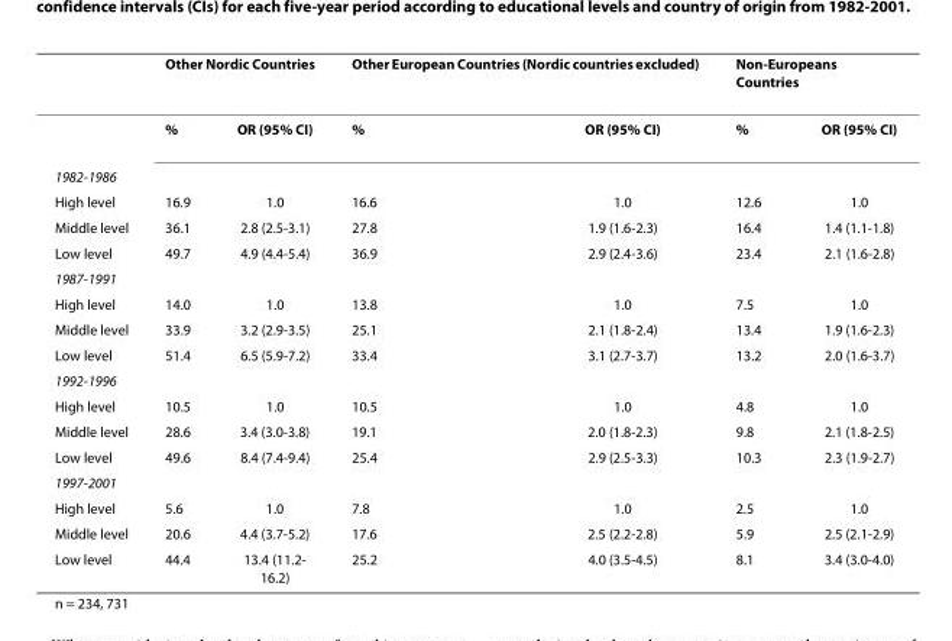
<table><thead><tr><td rowspan="2"></td><td colspan="2">Other Nordic Countries</td><td colspan="2">Other European Countries (Nordic countries excluded)</td><td colspan="2">Non-Europeans Countries</td></tr><tr><td>%</td><td>OR (95% CI)</td><td>%</td><td>OR (95% CI)</td><td>%</td><td>OR (95% CI)</td></tr></thead><tbody><tr><td colspan="7">1982-1986</td></tr><tr><td>High level</td><td>16.9</td><td>1.0</td><td>16.6</td><td>1.0</td><td>12.6</td><td>1.0</td></tr><tr><td>Middle level</td><td>36.1</td><td>2.8 (2.5-3.1)</td><td>27.8</td><td>1.9 (1.6-2.3)</td><td>16.4</td><td>1.4 (1.1-1.8)</td></tr><tr><td>Low level</td><td>49.7</td><td>4.9 (4.4-5.4)</td><td>36.9</td><td>2.9 (2.4-3.6)</td><td>23.4</td><td>2.1 (1.6-2.8)</td></tr><tr><td colspan="7">1987-1991</td></tr><tr><td>High level</td><td>14.0</td><td>1.0</td><td>13.8</td><td>1.0</td><td>7.5</td><td>1.0</td></tr><tr><td>Middle level</td><td>33.9</td><td>3.2 (2.9-3.5)</td><td>25.1</td><td>2.1 (1.8-2.4)</td><td>13.4</td><td>1.9 (1.6-2.3)</td></tr><tr><td>Low level</td><td>51.4</td><td>6.5 (5.9-7.2)</td><td>33.4</td><td>3.1 (2.7-3.7)</td><td>13.2</td><td>2.0 (1.6-3.7)</td></tr><tr><td colspan="7">1992-1996</td></tr><tr><td>High level</td><td>10.5</td><td>1.0</td><td>10.5</td><td>1.0</td><td>4.8</td><td>1.0</td></tr><tr><td>Middle level</td><td>28.6</td><td>3.4 (3.0-3.8)</td><td>19.1</td><td>2.0 (1.8-2.3)</td><td>9.8</td><td>2.1 (1.8-2.5)</td></tr><tr><td>Low level</td><td>49.6</td><td>8.4 (7.4-9.4)</td><td>25.4</td><td>2.9 (2.5-3.3)</td><td>10.3</td><td>2.3 (1.9-2.7)</td></tr><tr><td colspan="7">1997-2001</td></tr><tr><td>High level</td><td>5.6</td><td>1.0</td><td>7.8</td><td>1.0</td><td>2.5</td><td>1.0</td></tr><tr><td>Middle level</td><td>20.6</td><td>4.4 (3.7-5.2)</td><td>17.6</td><td>2.5 (2.2-2.8)</td><td>5.9</td><td>2.5 (2.1-2.9)</td></tr><tr><td>Low level</td><td>44.4</td><td>13.4 (11.2- 16.2)</td><td>25.2</td><td>4.0 (3.5-4.5)</td><td>8.1</td><td>3.4 (3.0-4.0)</td></tr></tbody></table>